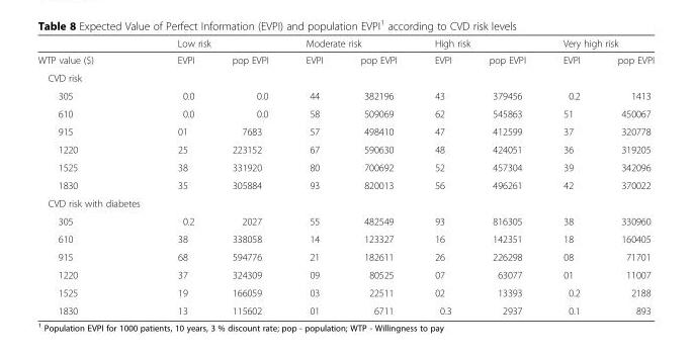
<table><thead><tr><td rowspan="2">WTP value ($)</td><td colspan="2">Low risk</td><td colspan="2">Moderate risk</td><td colspan="2">High risk</td><td colspan="2">Very high risk</td></tr><tr><td>EVPI</td><td>pop EVPI</td><td>EVPI</td><td>pop EVPI</td><td>EVPI</td><td>pop EVPI</td><td>EVPI</td><td>pop EVPI</td></tr></thead><tbody><tr><td colspan="9">CVD risk</td></tr><tr><td>305</td><td>0.0</td><td>0.0</td><td>44</td><td>382196</td><td>43</td><td>379456</td><td>0.2</td><td>1413</td></tr><tr><td>610</td><td>0.0</td><td>0.0</td><td>58</td><td>509069</td><td>62</td><td>545863</td><td>51</td><td>450067</td></tr><tr><td>915</td><td>01</td><td>7683</td><td>57</td><td>498410</td><td>47</td><td>412599</td><td>37</td><td>320778</td></tr><tr><td>1220</td><td>25</td><td>223152</td><td>67</td><td>590630</td><td>48</td><td>424051</td><td>36</td><td>319205</td></tr><tr><td>1525</td><td>38</td><td>331920</td><td>80</td><td>700692</td><td>52</td><td>457304</td><td>39</td><td>342096</td></tr><tr><td>1830</td><td>35</td><td>305884</td><td>93</td><td>820013</td><td>56</td><td>496261</td><td>42</td><td>370022</td></tr><tr><td colspan="9">CVD risk with diabetes</td></tr><tr><td>305</td><td>0.2</td><td>2027</td><td>55</td><td>482549</td><td>93</td><td>816305</td><td>38</td><td>330960</td></tr><tr><td>610</td><td>38</td><td>338058</td><td>14</td><td>123327</td><td>16</td><td>142351</td><td>18</td><td>160405</td></tr><tr><td>915</td><td>68</td><td>594776</td><td>21</td><td>182611</td><td>26</td><td>226298</td><td>08</td><td>71701</td></tr><tr><td>1220</td><td>37</td><td>324309</td><td>09</td><td>80525</td><td>07</td><td>63077</td><td>01</td><td>11007</td></tr><tr><td>1525</td><td>19</td><td>166059</td><td>03</td><td>22511</td><td>02</td><td>13393</td><td>0.2</td><td>2188</td></tr><tr><td>1830</td><td>13</td><td>115602</td><td>01</td><td>6711</td><td>0.3</td><td>2937</td><td>0.1</td><td>893</td></tr></tbody></table>